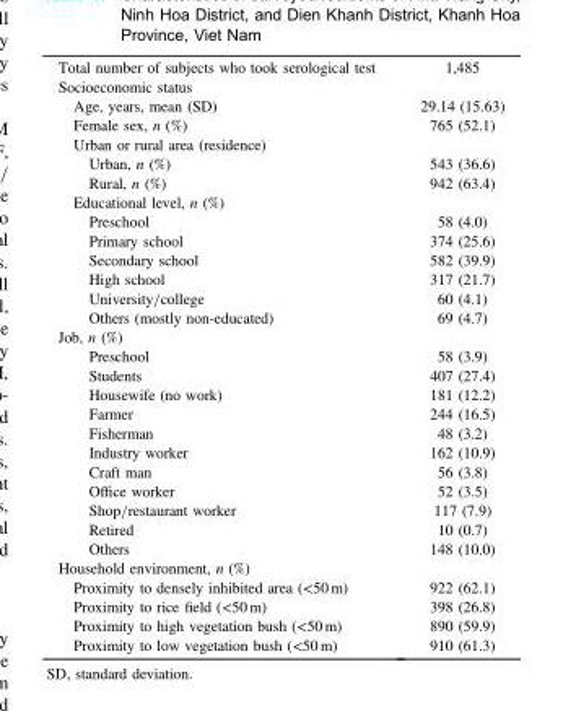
<table><tbody><tr><td>Total number of subjects who took serological test</td><td>1,485</td></tr><tr><td colspan="2">Socioeconomic status</td></tr><tr><td>Age, years, mean (SD)</td><td>29.14 (15.63)</td></tr><tr><td>Female sex, n (%)</td><td>765 (52.1)</td></tr><tr><td colspan="2">Urban or rural area (residence)</td></tr><tr><td>Urban, n (%)</td><td>543 (36.6)</td></tr><tr><td>Rural, n (%)</td><td>942 (63.4)</td></tr><tr><td colspan="2">Educational level, n (%)</td></tr><tr><td>Preschool</td><td>58 (4.0)</td></tr><tr><td>Primary school</td><td>374 (25.6)</td></tr><tr><td>Secondary school</td><td>582 (39.9)</td></tr><tr><td>High school</td><td>317 (21.7)</td></tr><tr><td>University=college</td><td>60 (4.1)</td></tr><tr><td>Others (mostly non-educated)</td><td>69 (4.7)</td></tr><tr><td colspan="2">Job, n (%)</td></tr><tr><td>Preschool</td><td>58 (3.9)</td></tr><tr><td>Students</td><td>407 (27.4)</td></tr><tr><td>Housewife (no work)</td><td>181 (12.2)</td></tr><tr><td>Farmer</td><td>244 (16.5)</td></tr><tr><td>Fisherman</td><td>48 (3.2)</td></tr><tr><td>Industry worker</td><td>162 (10.9)</td></tr><tr><td>Craft man</td><td>56 (3.8)</td></tr><tr><td>Office worker</td><td>52 (3.5)</td></tr><tr><td>Shop=restaurant worker</td><td>117 (7.9)</td></tr><tr><td>Retired</td><td>10 (0.7)</td></tr><tr><td>Others</td><td>148 (10.0)</td></tr><tr><td colspan="2">Household environment, n (%)</td></tr><tr><td>Proximity to densely inhibited area (&lt;50 m)</td><td>922 (62.1)</td></tr><tr><td>Proximity to rice field (&lt;50 m)</td><td>398 (26.8)</td></tr><tr><td>Proximity to high vegetation bush (&lt;50 m)</td><td>890 (59.9)</td></tr><tr><td>Proximity to low vegetation bush (&lt;50 m)</td><td>910 (61.3)</td></tr></tbody></table>